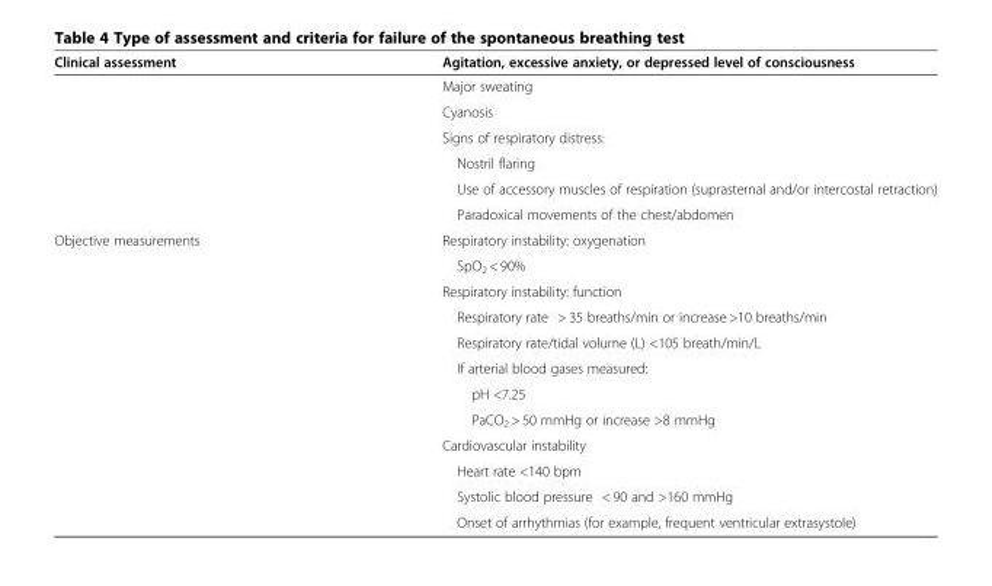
<table><thead><tr><td>Clinical assessment</td><td>Agitation, excessive anxiety, or depressed level of consciousness</td></tr></thead><tbody><tr><td></td><td>Major sweating</td></tr><tr><td></td><td>Cyanosis</td></tr><tr><td></td><td>Signs of respiratory distress:</td></tr><tr><td></td><td>Nostril flaring</td></tr><tr><td></td><td>Use of accessory muscles of respiration (suprasternal and/or intercostal retraction)</td></tr><tr><td></td><td>Paradoxical movements of the chest/abdomen</td></tr><tr><td rowspan="12">Objective measurements</td><td>Respiratory instability: oxygenation</td></tr><tr><td>SpO<sub>2</sub> &lt; 90%</td></tr><tr><td>Respiratory instability: function</td></tr><tr><td>Respiratory rate &gt; 35 breaths/min or increase &gt;10 breaths/min</td></tr><tr><td>Respiratory rate/tidal volume (L) &lt;105 breath/min/L</td></tr><tr><td>If arterial blood gases measured:</td></tr><tr><td>pH &lt;7.25</td></tr><tr><td>PaCO<sub>2</sub> &gt; 50 mmHg or increase &gt;8 mmHg</td></tr><tr><td>Cardiovascular instability</td></tr><tr><td>Heart rate &lt;140 bpm</td></tr><tr><td>Systolic blood pressure &lt; 90 and &gt;160 mmHg</td></tr><tr><td>Onset of arrhythmias (for example, frequent ventricular extrasystole)</td></tr></tbody></table>